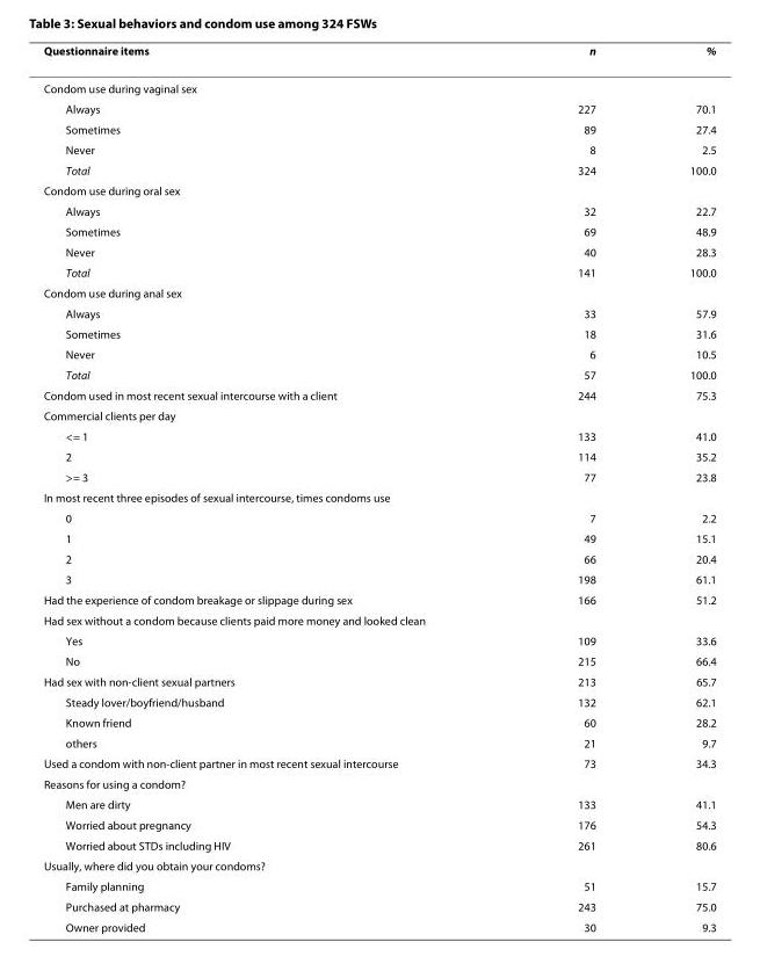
<table><thead><tr><td>Questionnaire items</td><td>n</td><td>%</td></tr></thead><tbody><tr><td colspan="3">Condom use during vaginal sex</td></tr><tr><td>Always</td><td>227</td><td>70.1</td></tr><tr><td>Sometimes</td><td>89</td><td>27.4</td></tr><tr><td>Never</td><td>8</td><td>2.5</td></tr><tr><td>Total</td><td>324</td><td>100.0</td></tr><tr><td colspan="3">Condom use during oral sex</td></tr><tr><td>Always</td><td>32</td><td>22.7</td></tr><tr><td>Sometimes</td><td>69</td><td>48.9</td></tr><tr><td>Never</td><td>40</td><td>28.3</td></tr><tr><td>Total</td><td>141</td><td>100.0</td></tr><tr><td colspan="3">Condom use during anal sex</td></tr><tr><td>Always</td><td>33</td><td>57.9</td></tr><tr><td>Sometimes</td><td>18</td><td>31.6</td></tr><tr><td>Never</td><td>6</td><td>10.5</td></tr><tr><td>Total</td><td>57</td><td>100.0</td></tr><tr><td>Condom used in most recent sexual intercourse with a client</td><td>244</td><td>75.3</td></tr><tr><td colspan="3">Commercial clients per day</td></tr><tr><td>&lt;= 1</td><td>133</td><td>41.0</td></tr><tr><td>2</td><td>114</td><td>35.2</td></tr><tr><td>&gt;= 3</td><td>77</td><td>23.8</td></tr><tr><td colspan="3">In most recent three episodes of sexual intercourse, times condoms use</td></tr><tr><td>0</td><td>7</td><td>2.2</td></tr><tr><td>1</td><td>49</td><td>15.1</td></tr><tr><td>2</td><td>66</td><td>20.4</td></tr><tr><td>3</td><td>198</td><td>61.1</td></tr><tr><td>Had the experience of condom breakage or slippage during sex</td><td>166</td><td>51.2</td></tr><tr><td colspan="3">Had sex without a condom because clients paid more money and looked clean</td></tr><tr><td>Yes</td><td>109</td><td>33.6</td></tr><tr><td>No</td><td>215</td><td>66.4</td></tr><tr><td>Had sex with non-client sexual partners</td><td>213</td><td>65.7</td></tr><tr><td>Steady lover/boyfriend/husband</td><td>132</td><td>62.1</td></tr><tr><td>Known friend</td><td>60</td><td>28.2</td></tr><tr><td>others</td><td>21</td><td>9.7</td></tr><tr><td>Used a condom with non-client partner in most recent sexual intercourse</td><td>73</td><td>34.3</td></tr><tr><td colspan="3">Reasons for using a condom?</td></tr><tr><td>Men are dirty</td><td>133</td><td>41.1</td></tr><tr><td>Worried about pregnancy</td><td>176</td><td>54.3</td></tr><tr><td>Worried about STDs including HIV</td><td>261</td><td>80.6</td></tr><tr><td colspan="3">Usually, where did you obtain your condoms?</td></tr><tr><td>Family planning</td><td>51</td><td>15.7</td></tr><tr><td>Purchased at pharmacy</td><td>243</td><td>75.0</td></tr><tr><td>Owner provided</td><td>30</td><td>9.3</td></tr></tbody></table>